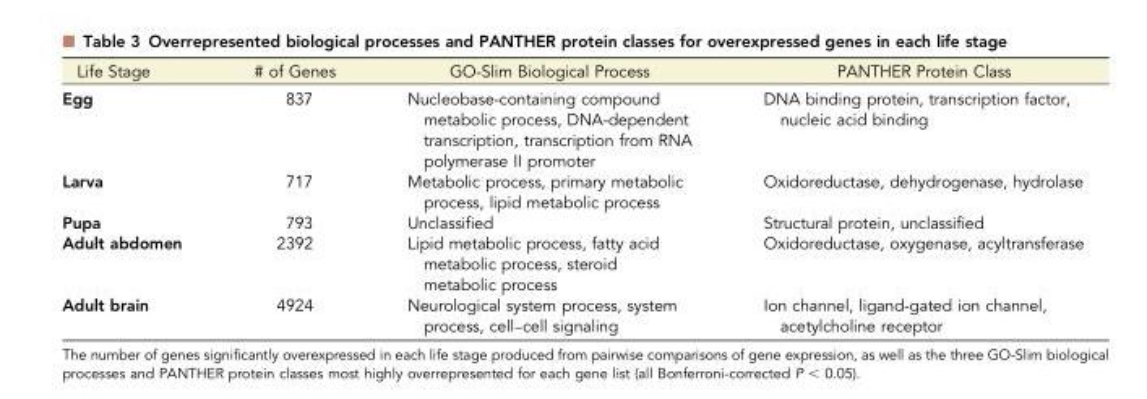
<table><thead><tr><td>Life Stage</td><td># of Genes</td><td>GO-Slim Biological Process</td><td>PANTHER Protein Class</td></tr></thead><tbody><tr><td>Egg</td><td>837</td><td>Nucleobase-containing compound metabolic process, DNA-dependent transcription, transcription from RNA polymerase II promoter</td><td>DNA binding protein, transcription factor, nucleic acid binding</td></tr><tr><td>Larva</td><td>717</td><td>Metabolic process, primary metabolic process, lipid metabolic process</td><td>Oxidoreductase, dehydrogenase, hydrolase</td></tr><tr><td>Pupa</td><td>793</td><td>Unclassified</td><td>Structural protein, unclassified</td></tr><tr><td>Adult abdomen</td><td>2392</td><td>Lipid metabolic process, fatty acid metabolic process, steroid metabolic process</td><td>Oxidoreductase, oxygenase, acyltransferase</td></tr><tr><td>Adult brain</td><td>4924</td><td>Neurological system process, system process, cell–cell signaling</td><td>Ion channel, ligand-gated ion channel, acetylcholine receptor</td></tr></tbody></table>